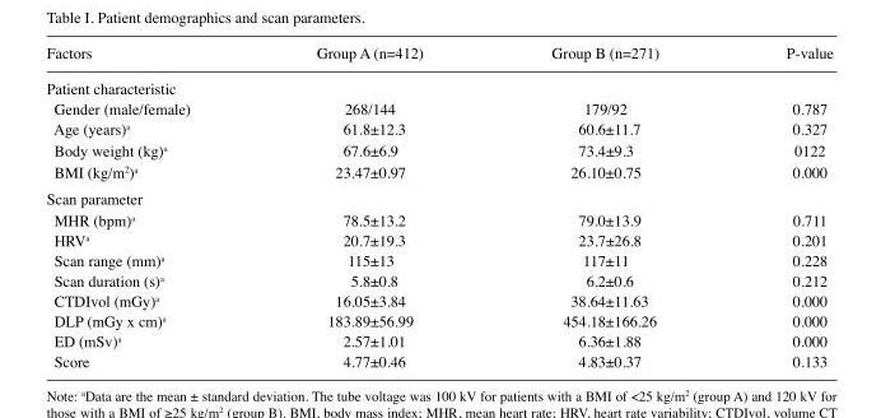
<table><thead><tr><td>Factors</td><td>Group A (n=412)</td><td>Group B (n=271)</td><td>P-value</td></tr></thead><tbody><tr><td colspan="4">Patient characteristic</td></tr><tr><td>Gender (male/female)</td><td>268/144</td><td>179/92</td><td>0.787</td></tr><tr><td>Age (years)<sup>a</sup></td><td>61.8±12.3</td><td>60.6±11.7</td><td>0.327</td></tr><tr><td>Body weight (kg)<sup>a</sup></td><td>67.6±6.9</td><td>73.4±9.3</td><td>0122</td></tr><tr><td>BMI (kg/m<sup>2</sup>)<sup>a</sup></td><td>23.47±0.97</td><td>26.10±0.75</td><td>0.000</td></tr><tr><td colspan="4">Scan parameter</td></tr><tr><td>MHR (bpm)<sup>a</sup></td><td>78.5±13.2</td><td>79.0±13.9</td><td>0.711</td></tr><tr><td>HRV<sup>a</sup></td><td>20.7±19.3</td><td>23.7±26.8</td><td>0.201</td></tr><tr><td>Scan range (mm)<sup>a</sup></td><td>115±13</td><td>117±11</td><td>0.228</td></tr><tr><td>Scan duration (s)<sup>a</sup></td><td>5.8±0.8</td><td>6.2±0.6</td><td>0.212</td></tr><tr><td>CTDIvol (mGy)<sup>a</sup></td><td>16.05±3.84</td><td>38.64±11.63</td><td>0.000</td></tr><tr><td>DLP (mGy x cm)a</td><td>183.89±56.99</td><td>454.18±166.26</td><td>0.000</td></tr><tr><td>ED (mSv)<sup>a</sup></td><td>2.57±1.01</td><td>6.36±1.88</td><td>0.000</td></tr><tr><td>Score</td><td>4.77±0.46</td><td>4.83±0.37</td><td>0.133</td></tr></tbody></table>